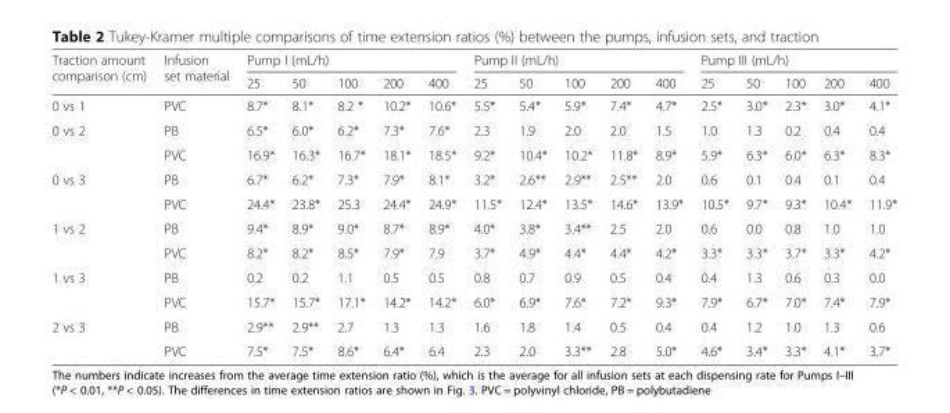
<table><thead><tr><td rowspan="2">Traction amount comparison (cm)</td><td rowspan="2">Infusion set material</td><td colspan="5">Pump I (mL/h)</td><td colspan="5">Pump II (mL/h)</td><td colspan="5">Pump III (mL/h)</td></tr><tr><td>25</td><td>50</td><td>100</td><td>200</td><td>400</td><td>25</td><td>50</td><td>100</td><td>200</td><td>400</td><td>25</td><td>50</td><td>100</td><td>200</td><td>400</td></tr></thead><tbody><tr><td>0 vs 1</td><td>PVC</td><td>8.7*</td><td>8.1*</td><td>8.2 *</td><td>10.2*</td><td>10.6*</td><td>5.5*</td><td>5.4*</td><td>5.9*</td><td>7.4*</td><td>4.7*</td><td>2.5*</td><td>3.0*</td><td>2.3*</td><td>3.0*</td><td>4.1*</td></tr><tr><td rowspan="2">0 vs 2</td><td>PB</td><td>6.5*</td><td>6.0*</td><td>6.2*</td><td>7.3*</td><td>7.6*</td><td>2.3</td><td>1.9</td><td>2.0</td><td>2.0</td><td>1.5</td><td>1.0</td><td>1.3</td><td>0.2</td><td>0.4</td><td>0.4</td></tr><tr><td>PVC</td><td>16.9*</td><td>16.3*</td><td>16.7*</td><td>18.1*</td><td>18.5*</td><td>9.2*</td><td>10.4*</td><td>10.2*</td><td>11.8*</td><td>8.9*</td><td>5.9*</td><td>6.3*</td><td>6.0*</td><td>6.3*</td><td>8.3*</td></tr><tr><td rowspan="2">0 vs 3</td><td>PB</td><td>6.7*</td><td>6.2*</td><td>7.3*</td><td>7.9*</td><td>8.1*</td><td>3.2*</td><td>2.6**</td><td>2.9**</td><td>2.5**</td><td>2.0</td><td>0.6</td><td>0.1</td><td>0.4</td><td>0.1</td><td>0.4</td></tr><tr><td>PVC</td><td>24.4*</td><td>23.8*</td><td>25.3</td><td>24.4*</td><td>24.9*</td><td>11.5*</td><td>12.4*</td><td>13.5*</td><td>14.6*</td><td>13.9*</td><td>10.5*</td><td>9.7*</td><td>9.3*</td><td>10.4*</td><td>11.9*</td></tr><tr><td rowspan="2">1 vs 2</td><td>PB</td><td>9.4*</td><td>8.9*</td><td>9.0*</td><td>8.7*</td><td>8.9*</td><td>4.0*</td><td>3.8*</td><td>3.4**</td><td>2.5</td><td>2.0</td><td>0.6</td><td>0.0</td><td>0.8</td><td>1.0</td><td>1.0</td></tr><tr><td>PVC</td><td>8.2*</td><td>8.2*</td><td>8.5*</td><td>7.9*</td><td>7.9</td><td>3.7*</td><td>4.9*</td><td>4.4*</td><td>4.4*</td><td>4.2*</td><td>3.3*</td><td>3.3*</td><td>3.7*</td><td>3.3*</td><td>4.2*</td></tr><tr><td rowspan="2">1 vs 3</td><td>PB</td><td>0.2</td><td>0.2</td><td>1.1</td><td>0.5</td><td>0.5</td><td>0.8</td><td>0.7</td><td>0.9</td><td>0.5</td><td>0.4</td><td>0.4</td><td>1.3</td><td>0.6</td><td>0.3</td><td>0.0</td></tr><tr><td>PVC</td><td>15.7*</td><td>15.7*</td><td>17.1*</td><td>14.2*</td><td>14.2*</td><td>6.0*</td><td>6.9*</td><td>7.6*</td><td>7.2*</td><td>9.3*</td><td>7.9*</td><td>6.7*</td><td>7.0*</td><td>7.4*</td><td>7.9*</td></tr><tr><td rowspan="2">2 vs 3</td><td>PB</td><td>2.9**</td><td>2.9**</td><td>2.7</td><td>1.3</td><td>1.3</td><td>1.6</td><td>1.8</td><td>1.4</td><td>0.5</td><td>0.4</td><td>0.4</td><td>1.2</td><td>1.0</td><td>1.3</td><td>0.6</td></tr><tr><td>PVC</td><td>7.5*</td><td>7.5*</td><td>8.6*</td><td>6.4*</td><td>6.4</td><td>2.3</td><td>2.0</td><td>3.3**</td><td>2.8</td><td>5.0*</td><td>4.6*</td><td>3.4*</td><td>3.3*</td><td>4.1*</td><td>3.7*</td></tr></tbody></table>